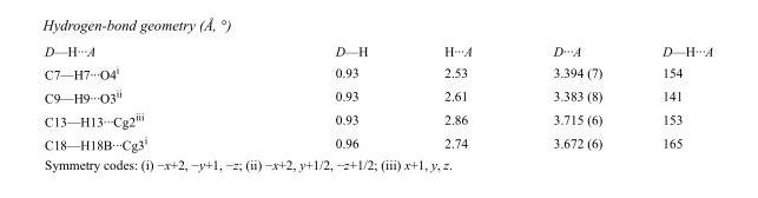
<table><tbody><tr><td>D—H···A</td><td>D—H</td><td>H···A</td><td>D···A</td><td>D—H···A</td></tr><tr><td>C7—H7···O4<sup>i</sup></td><td>0.93</td><td>2.53</td><td>3.394 (7)</td><td>154</td></tr><tr><td>C9—H9···O3<sup>ii</sup></td><td>0.93</td><td>2.61</td><td>3.383 (8)</td><td>141</td></tr><tr><td>C13—H13···Cg2<sup>iii</sup></td><td>0.93</td><td>2.86</td><td>3.715 (6)</td><td>153</td></tr><tr><td>C18—H18B···Cg3<sup>i</sup></td><td>0.96</td><td>2.74</td><td>3.672 (6)</td><td>165</td></tr></tbody></table>